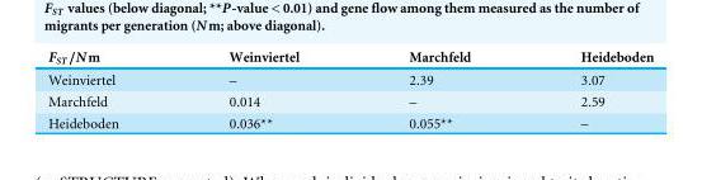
<table><thead><tr><td>FST/Nm</td><td>Weinviertel</td><td>Marchfeld</td><td>Heideboden</td></tr></thead><tbody><tr><td>Weinviertel</td><td>–</td><td>2.39</td><td>3.07</td></tr><tr><td>Marchfeld</td><td>0.014</td><td>–</td><td>2.59</td></tr><tr><td>Heideboden</td><td>0.036**</td><td>0.055**</td><td>–</td></tr></tbody></table>